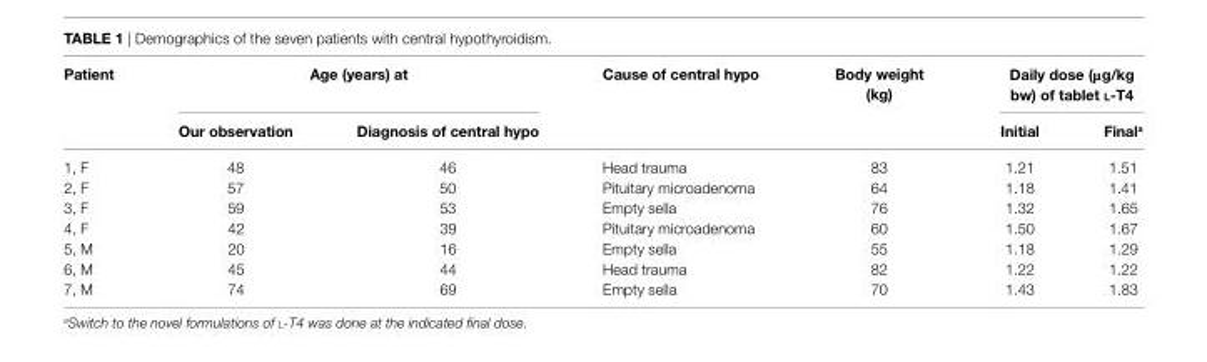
<table><thead><tr><td rowspan="2">Patient</td><td colspan="2">age (years) at</td><td rowspan="2">cause of central hypo</td><td rowspan="2">body weight (kg)</td><td colspan="2">Daily dose (μg/kg bw) of tablet l-T4</td></tr><tr><td>Our observation</td><td>Diagnosis of central hypo</td><td>initial</td><td>Final<sup>a</sup></td></tr></thead><tbody><tr><td>1, F</td><td>48</td><td>46</td><td>Head trauma</td><td>83</td><td>1.21</td><td>1.51</td></tr><tr><td>2, F</td><td>57</td><td>50</td><td>Pituitary microadenoma</td><td>64</td><td>1.18</td><td>1.41</td></tr><tr><td>3, F</td><td>59</td><td>53</td><td>Empty sella</td><td>76</td><td>1.32</td><td>1.65</td></tr><tr><td>4, F</td><td>42</td><td>39</td><td>Pituitary microadenoma</td><td>60</td><td>1.50</td><td>1.67</td></tr><tr><td>5, M</td><td>20</td><td>16</td><td>Empty sella</td><td>55</td><td>1.18</td><td>1.29</td></tr><tr><td>6, M</td><td>45</td><td>44</td><td>Head trauma</td><td>82</td><td>1.22</td><td>1.22</td></tr><tr><td>7, M</td><td>74</td><td>69</td><td>Empty sella</td><td>70</td><td>1.43</td><td>1.83</td></tr></tbody></table>